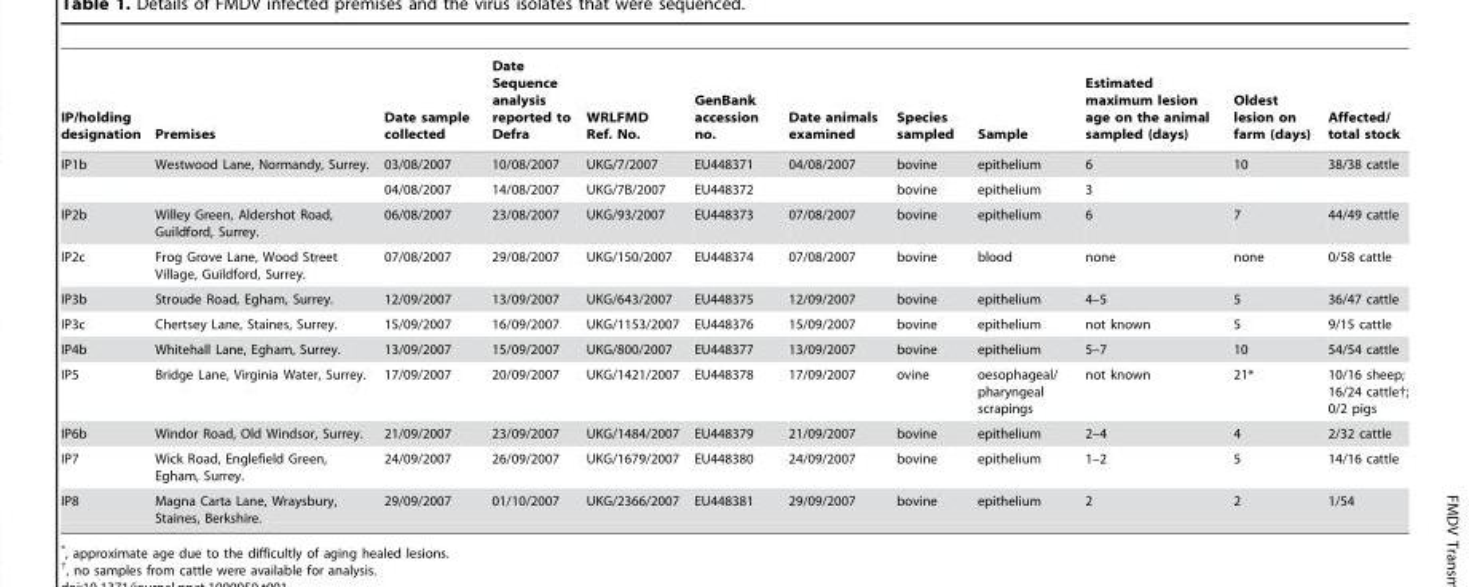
<table><thead><tr><td>IP/holding designation</td><td>Premises</td><td>Date sample collected</td><td>Date Sequence analysis reported to Defra</td><td>WRLFMD Ref. No.</td><td>GenBank accession no.</td><td>Date animals examined</td><td>Species sampled</td><td>Sample</td><td>Estimated maximum lesion age on the animal sampled (days)</td><td>Oldest lesion on farm (days)</td><td>Affected/ total stock</td></tr></thead><tbody><tr><td rowspan="2">IP1b</td><td>Westwood Lane, Normandy, Surrey.</td><td>03/08/2007</td><td>10/08/2007</td><td>UKG/7/2007</td><td>EU448371</td><td>04/08/2007</td><td>bovine</td><td>epithelium</td><td>6</td><td>10</td><td>38/38 cattle</td></tr><tr><td></td><td>04/08/2007</td><td>14/08/2007</td><td>UKG/7B/2007</td><td>EU448372</td><td></td><td>bovine</td><td>epithelium</td><td>3</td><td></td><td></td></tr><tr><td>IP2b</td><td>Willey Green, Aldershot Road, Guildford, Surrey.</td><td>06/08/2007</td><td>23/08/2007</td><td>UKG/93/2007</td><td>EU448373</td><td>07/08/2007</td><td>bovine</td><td>epithelium</td><td>6</td><td>7</td><td>44/49 cattle</td></tr><tr><td>IP2c</td><td>Frog Grove Lane, Wood Street Village, Guildford, Surrey.</td><td>07/08/2007</td><td>29/08/2007</td><td>UKG/150/2007</td><td>EU448374</td><td>07/08/2007</td><td>bovine</td><td>blood</td><td>none</td><td>none</td><td>0/58 cattle</td></tr><tr><td>IP3b</td><td>Stroude Road, Egham, Surrey.</td><td>12/09/2007</td><td>13/09/2007</td><td>UKG/643/2007</td><td>EU448375</td><td>12/09/2007</td><td>bovine</td><td>epithelium</td><td>4–5</td><td>5</td><td>36/47 cattle</td></tr><tr><td>IP3c</td><td>Chertsey Lane, Staines, Surrey.</td><td>15/09/2007</td><td>16/09/2007</td><td>UKG/1153/2007</td><td>EU448376</td><td>15/09/2007</td><td>bovine</td><td>epithelium</td><td>not known</td><td>5</td><td>9/15 cattle</td></tr><tr><td>IP4b</td><td>Whitehall Lane, Egham, Surrey.</td><td>13/09/2007</td><td>15/09/2007</td><td>UKG/800/2007</td><td>EU448377</td><td>13/09/2007</td><td>bovine</td><td>epithelium</td><td>5–7</td><td>10</td><td>54/54 cattle</td></tr><tr><td>IP5</td><td>Bridge Lane, Virginia Water, Surrey.</td><td>17/09/2007</td><td>20/09/2007</td><td>UKG/1421/2007</td><td>EU448378</td><td>17/09/2007</td><td>ovine</td><td>oesophageal/ pharyngeal scrapings</td><td>not known</td><td>21*</td><td>10/16 sheep; 16/24 cattle†; 0/2 pigs</td></tr><tr><td>IP6b</td><td>Windor Road, Old Windsor, Surrey.</td><td>21/09/2007</td><td>23/09/2007</td><td>UKG/1484/2007</td><td>EU448379</td><td>21/09/2007</td><td>bovine</td><td>epithelium</td><td>2–4</td><td>4</td><td>2/32 cattle</td></tr><tr><td>IP7</td><td>Wick Road, Englefield Green, Egham, Surrey.</td><td>24/09/2007</td><td>26/09/2007</td><td>UKG/1679/2007</td><td>EU448380</td><td>24/09/2007</td><td>bovine</td><td>epithelium</td><td>1–2</td><td>5</td><td>14/16 cattle</td></tr><tr><td>IP8</td><td>Magna Carta Lane, Wraysbury, Staines, Berkshire.</td><td>29/09/2007</td><td>01/10/2007</td><td>UKG/2366/2007</td><td>EU448381</td><td>29/09/2007</td><td>bovine</td><td>epithelium</td><td>2</td><td>2</td><td>1/54</td></tr></tbody></table>